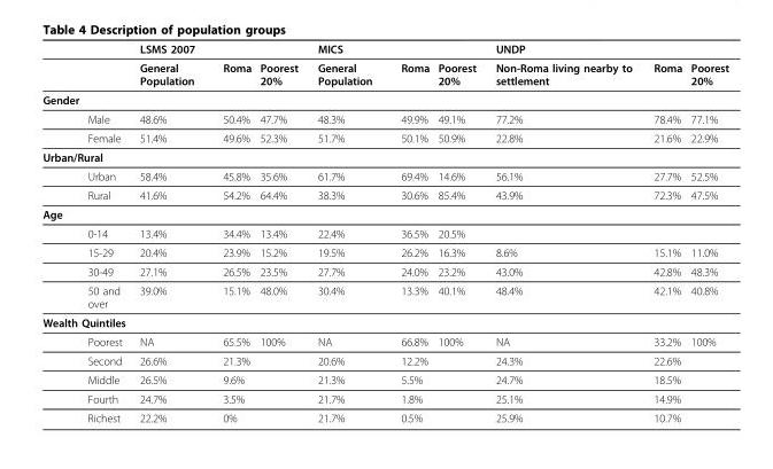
<table><thead><tr><td rowspan="2"></td><td rowspan="2"></td><td colspan="3">LSMS 2007</td><td colspan="3">MICS</td><td colspan="3">UNDP</td></tr><tr><td>General Population</td><td>Roma</td><td>Poorest 20%</td><td>General Population</td><td>Roma</td><td>Poorest 20%</td><td>Non-Roma living nearby to settlement</td><td>Roma</td><td>Poorest 20%</td></tr></thead><tbody><tr><td colspan="11">Gender</td></tr><tr><td></td><td>Male</td><td>48.6%</td><td>50.4%</td><td>47.7%</td><td>48.3%</td><td>49.9%</td><td>49.1%</td><td>77.2%</td><td>78.4%</td><td>77.1%</td></tr><tr><td></td><td>Female</td><td>51.4%</td><td>49.6%</td><td>52.3%</td><td>51.7%</td><td>50.1%</td><td>50.9%</td><td>22.8%</td><td>21.6%</td><td>22.9%</td></tr><tr><td colspan="11">Urban/Rural</td></tr><tr><td></td><td>Urban</td><td>58.4%</td><td>45.8%</td><td>35.6%</td><td>61.7%</td><td>69.4%</td><td>14.6%</td><td>56.1%</td><td>27.7%</td><td>52.5%</td></tr><tr><td></td><td>Rural</td><td>41.6%</td><td>54.2%</td><td>64.4%</td><td>38.3%</td><td>30.6%</td><td>85.4%</td><td>43.9%</td><td>72.3%</td><td>47.5%</td></tr><tr><td colspan="11">Age</td></tr><tr><td></td><td>0-14</td><td>13.4%</td><td>34.4%</td><td>13.4%</td><td>22.4%</td><td>36.5%</td><td>20.5%</td><td></td><td></td><td></td></tr><tr><td></td><td>15-29</td><td>20.4%</td><td>23.9%</td><td>15.2%</td><td>19.5%</td><td>26.2%</td><td>16.3%</td><td>8.6%</td><td>15.1%</td><td>11.0%</td></tr><tr><td></td><td>30-49</td><td>27.1%</td><td>26.5%</td><td>23.5%</td><td>27.7%</td><td>24.0%</td><td>23.2%</td><td>43.0%</td><td>42.8%</td><td>48.3%</td></tr><tr><td></td><td>50 and over</td><td>39.0%</td><td>15.1%</td><td>48.0%</td><td>30.4%</td><td>13.3%</td><td>40.1%</td><td>48.4%</td><td>42.1%</td><td>40.8%</td></tr><tr><td colspan="11">Wealth Quintiles</td></tr><tr><td></td><td>Poorest</td><td>NA</td><td>65.5%</td><td>100%</td><td>NA</td><td>66.8%</td><td>100%</td><td>NA</td><td>33.2%</td><td>100%</td></tr><tr><td></td><td>Second</td><td>26.6%</td><td>21.3%</td><td></td><td>20.6%</td><td>12.2%</td><td></td><td>24.3%</td><td>22.6%</td><td></td></tr><tr><td></td><td>Middle</td><td>26.5%</td><td>9.6%</td><td></td><td>21.3%</td><td>5.5%</td><td></td><td>24.7%</td><td>18.5%</td><td></td></tr><tr><td></td><td>Fourth</td><td>24.7%</td><td>3.5%</td><td></td><td>21.7%</td><td>1.8%</td><td></td><td>25.1%</td><td>14.9%</td><td></td></tr><tr><td></td><td>Richest</td><td>22.2%</td><td>0%</td><td></td><td>21.7%</td><td>0.5%</td><td></td><td>25.9%</td><td>10.7%</td><td></td></tr></tbody></table>